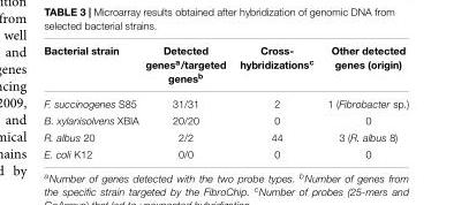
<table><thead><tr><td>Bacterial strain</td><td>Detected genes<sup>a</sup>/targeted genes<sup>b</sup></td><td>Cross- hybridizations<sup>c</sup></td><td>Other detected genes (origin)</td></tr></thead><tbody><tr><td>F. succinogenes S85</td><td>31/31</td><td>2</td><td>1 (Fibrobacter sp.)</td></tr><tr><td>B. xylanisolvens XBlA</td><td>20/20</td><td>0</td><td>0</td></tr><tr><td>R. albus 20</td><td>2/2</td><td>44</td><td>3 (R. albus 8)</td></tr><tr><td>E. coli K12</td><td>0/0</td><td>0</td><td>0</td></tr></tbody></table>